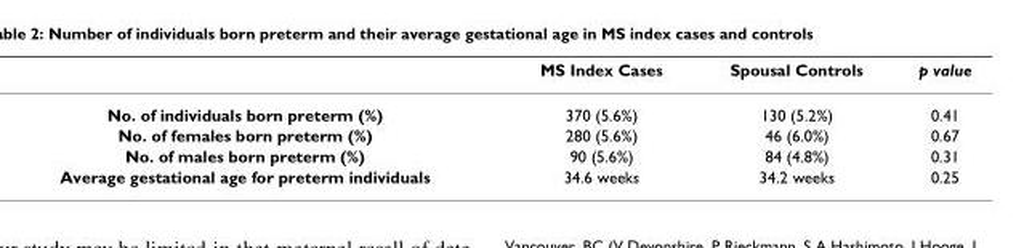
<table><thead><tr><td></td><td>MS Index Cases</td><td>Spousal Controls</td><td>p value</td></tr></thead><tbody><tr><td>No. of individuals born preterm (%)</td><td>370 (5.6%)</td><td>130 (5.2%)</td><td>0.41</td></tr><tr><td>No. of females born preterm (%)</td><td>280 (5.6%)</td><td>46 (6.0%)</td><td>0.67</td></tr><tr><td>No. of males born preterm (%)</td><td>90 (5.6%)</td><td>84 (4.8%)</td><td>0.31</td></tr><tr><td>Average gestational age for preterm individuals</td><td>34.6 weeks</td><td>34.2 weeks</td><td>0.25</td></tr></tbody></table>